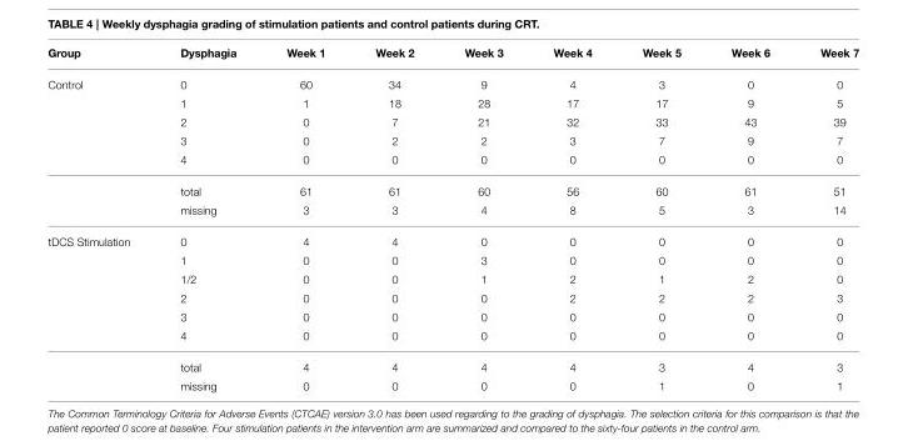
<table><thead><tr><td>Group</td><td>Dysphagia</td><td>Week 1</td><td>Week 2</td><td>Week 3</td><td>Week 4</td><td>Week 5</td><td>Week 6</td><td>Week 7</td></tr></thead><tbody><tr><td rowspan="7">Control</td><td>0</td><td>60</td><td>34</td><td>9</td><td>4</td><td>3</td><td>0</td><td>0</td></tr><tr><td>1</td><td>1</td><td>18</td><td>28</td><td>17</td><td>17</td><td>9</td><td>5</td></tr><tr><td>2</td><td>0</td><td>7</td><td>21</td><td>32</td><td>33</td><td>43</td><td>39</td></tr><tr><td>3</td><td>0</td><td>2</td><td>2</td><td>3</td><td>7</td><td>9</td><td>7</td></tr><tr><td>4</td><td>0</td><td>0</td><td>0</td><td>0</td><td>0</td><td>0</td><td>0</td></tr><tr><td>total</td><td>61</td><td>61</td><td>60</td><td>56</td><td>60</td><td>61</td><td>51</td></tr><tr><td>missing</td><td>3</td><td>3</td><td>4</td><td>8</td><td>5</td><td>3</td><td>14</td></tr><tr><td rowspan="8">tDCS Stimulation</td><td>0</td><td>4</td><td>4</td><td>0</td><td>0</td><td>0</td><td>0</td><td>0</td></tr><tr><td>1</td><td>0</td><td>0</td><td>3</td><td>0</td><td>0</td><td>0</td><td>0</td></tr><tr><td>1/2</td><td>0</td><td>0</td><td>1</td><td>2</td><td>1</td><td>2</td><td>0</td></tr><tr><td>2</td><td>0</td><td>0</td><td>0</td><td>2</td><td>2</td><td>2</td><td>3</td></tr><tr><td>3</td><td>0</td><td>0</td><td>0</td><td>0</td><td>0</td><td>0</td><td>0</td></tr><tr><td>4</td><td>0</td><td>0</td><td>0</td><td>0</td><td>0</td><td>0</td><td>0</td></tr><tr><td>total</td><td>4</td><td>4</td><td>4</td><td>4</td><td>3</td><td>4</td><td>3</td></tr><tr><td>missing</td><td>0</td><td>0</td><td>0</td><td>0</td><td>1</td><td>0</td><td>1</td></tr></tbody></table>